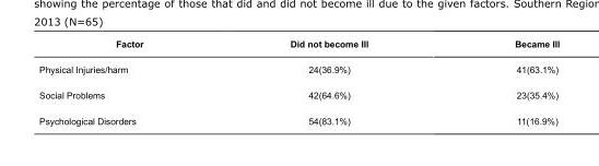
<table><tbody><tr><td>Factor</td><td>Did not become Ill</td><td>Became Ill</td></tr><tr><td>Physical Injuries/harm</td><td>24(36.9%)</td><td>41(63.1%)</td></tr><tr><td>Social Problems</td><td>42(64.6%)</td><td>23(35.4%)</td></tr><tr><td>Psychological Disorders</td><td>54(83.1%)</td><td>11(16.9%)</td></tr></tbody></table>